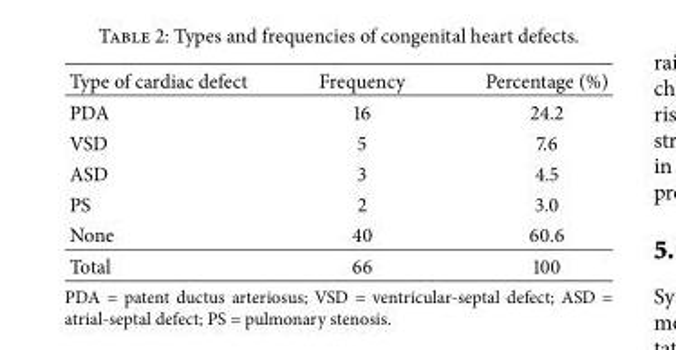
<table><thead><tr><td>Type of cardiac defect</td><td>Frequency</td><td>Percentage (%)</td></tr></thead><tbody><tr><td>PDA</td><td>16</td><td>24.2</td></tr><tr><td>VSD</td><td>5</td><td>7.6</td></tr><tr><td>ASD</td><td>3</td><td>4.5</td></tr><tr><td>PS</td><td>2</td><td>3.0</td></tr><tr><td>None</td><td>40</td><td>60.6</td></tr><tr><td>Total</td><td>66</td><td>100</td></tr></tbody></table>